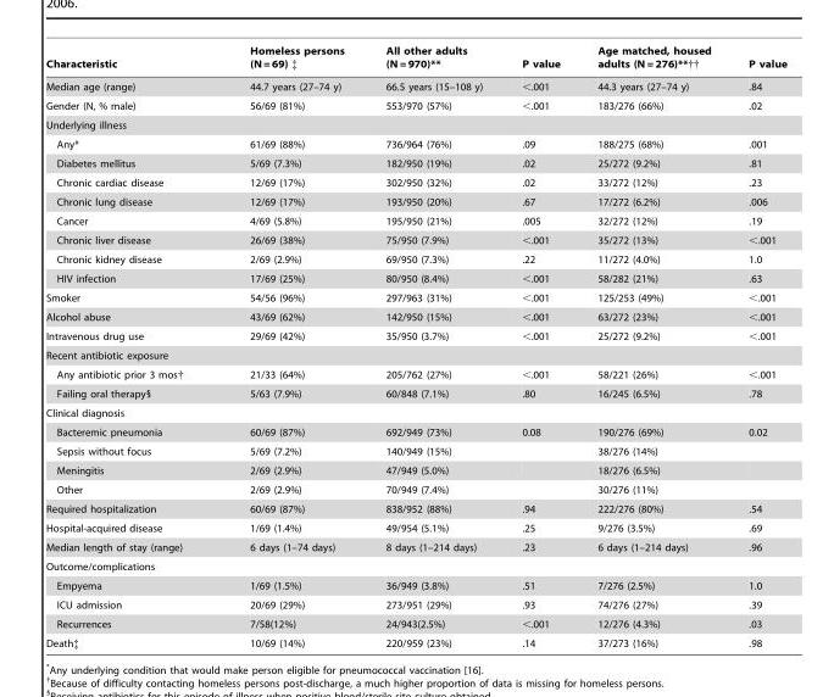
<table><thead><tr><td>Characteristic</td><td>Homeless persons (N = 69) ‡</td><td>All other adults (N = 970)**</td><td>P value</td><td>Age matched, housed adults (N = 276)**††</td><td>P value</td></tr></thead><tbody><tr><td>Median age (range)</td><td>44.7 years (27–74 y)</td><td>66.5 years (15–108 y)</td><td>&lt;.001</td><td>44.3 years (27–74 y)</td><td>.84</td></tr><tr><td>Gender (N, % male)</td><td>56/69 (81%)</td><td>553/970 (57%)</td><td>&lt;.001</td><td>183/276 (66%)</td><td>.02</td></tr><tr><td colspan="6">Underlying illness</td></tr><tr><td>Any*</td><td>61/69 (88%)</td><td>736/964 (76%)</td><td>.09</td><td>188/275 (68%)</td><td>.001</td></tr><tr><td>Diabetes mellitus</td><td>5/69 (7.3%)</td><td>182/950 (19%)</td><td>.02</td><td>25/272 (9.2%)</td><td>.81</td></tr><tr><td>Chronic cardiac disease</td><td>12/69 (17%)</td><td>302/950 (32%)</td><td>.02</td><td>33/272 (12%)</td><td>.23</td></tr><tr><td>Chronic lung disease</td><td>12/69 (17%)</td><td>193/950 (20%)</td><td>.67</td><td>17/272 (6.2%)</td><td>.006</td></tr><tr><td>Cancer</td><td>4/69 (5.8%)</td><td>195/950 (21%)</td><td>.005</td><td>32/272 (12%)</td><td>.19</td></tr><tr><td>Chronic liver disease</td><td>26/69 (38%)</td><td>75/950 (7.9%)</td><td>&lt;.001</td><td>35/272 (13%)</td><td>&lt;.001</td></tr><tr><td>Chronic kidney disease</td><td>2/69 (2.9%)</td><td>69/950 (7.3%)</td><td>.22</td><td>11/272 (4.0%)</td><td>1.0</td></tr><tr><td>HIV infection</td><td>17/69 (25%)</td><td>80/950 (8.4%)</td><td>&lt;.001</td><td>58/282 (21%)</td><td>.63</td></tr><tr><td>Smoker</td><td>54/56 (96%)</td><td>297/963 (31%)</td><td>&lt;.001</td><td>125/253 (49%)</td><td>&lt;.001</td></tr><tr><td>Alcohol abuse</td><td>43/69 (62%)</td><td>142/950 (15%)</td><td>&lt;.001</td><td>63/272 (23%)</td><td>&lt;.001</td></tr><tr><td>Intravenous drug use</td><td>29/69 (42%)</td><td>35/950 (3.7%)</td><td>&lt;.001</td><td>25/272 (9.2%)</td><td>&lt;.001</td></tr><tr><td colspan="6">Recent antibiotic exposure</td></tr><tr><td>Any antibiotic prior 3 mos†</td><td>21/33 (64%)</td><td>205/762 (27%)</td><td>&lt;.001</td><td>58/221 (26%)</td><td>&lt;.001</td></tr><tr><td>Failing oral therapy§</td><td>5/63 (7.9%)</td><td>60/848 (7.1%)</td><td>.80</td><td>16/245 (6.5%)</td><td>.78</td></tr><tr><td colspan="6">Clinical diagnosis</td></tr><tr><td>Bacteremic pneumonia</td><td>60/69 (87%)</td><td>692/949 (73%)</td><td>0.08</td><td>190/276 (69%)</td><td>0.02</td></tr><tr><td>Sepsis without focus</td><td>5/69 (7.2%)</td><td>140/949 (15%)</td><td></td><td>38/276 (14%)</td><td></td></tr><tr><td>Meningitis</td><td>2/69 (2.9%)</td><td>47/949 (5.0%)</td><td></td><td>18/276 (6.5%)</td><td></td></tr><tr><td>Other</td><td>2/69 (2.9%)</td><td>70/949 (7.4%)</td><td></td><td>30/276 (11%)</td><td></td></tr><tr><td>Required hospitalization</td><td>60/69 (87%)</td><td>838/952 (88%)</td><td>.94</td><td>222/276 (80%)</td><td>.54</td></tr><tr><td>Hospital-acquired disease</td><td>1/69 (1.4%)</td><td>49/954 (5.1%)</td><td>.25</td><td>9/276 (3.5%)</td><td>.69</td></tr><tr><td>Median length of stay (range)</td><td>6 days (1–74 days)</td><td>8 days (1–214 days)</td><td>.23</td><td>6 days (1–214 days)</td><td>.96</td></tr><tr><td colspan="6">Outcome/complications</td></tr><tr><td>Empyema</td><td>1/69 (1.5%)</td><td>36/949 (3.8%)</td><td>.51</td><td>7/276 (2.5%)</td><td>1.0</td></tr><tr><td>ICU admission</td><td>20/69 (29%)</td><td>273/951 (29%)</td><td>.93</td><td>74/276 (27%)</td><td>.39</td></tr><tr><td>Recurrences</td><td>7/58(12%)</td><td>24/943(2.5%)</td><td>&lt;.001</td><td>12/276 (4.3%)</td><td>.03</td></tr><tr><td>Death‡</td><td>10/69 (14%)</td><td>220/959 (23%)</td><td>.14</td><td>37/273 (16%)</td><td>.98</td></tr></tbody></table>